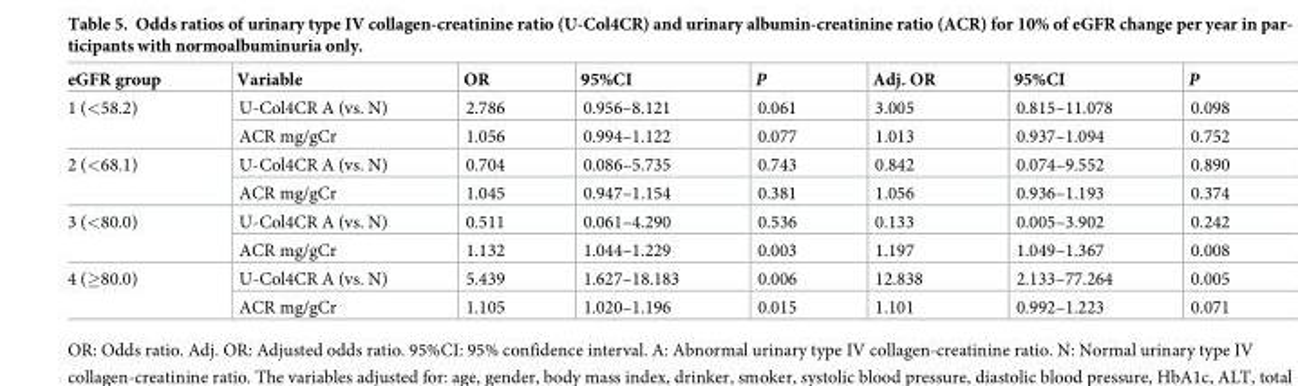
<table><thead><tr><td>eGFR group</td><td>Variable</td><td>OR</td><td>95%CI</td><td>P</td><td>Adj. OR</td><td>95%CI</td><td>P</td></tr></thead><tbody><tr><td rowspan="2">1 (&lt;58.2)</td><td>U-Col4CR A (vs. N)</td><td>2.786</td><td>0.956–8.121</td><td>0.061</td><td>3.005</td><td>0.815–11.078</td><td>0.098</td></tr><tr><td>ACR mg/gCr</td><td>1.056</td><td>0.994–1.122</td><td>0.077</td><td>1.013</td><td>0.937–1.094</td><td>0.752</td></tr><tr><td rowspan="2">2 (&lt;68.1)</td><td>U-Col4CR A (vs. N)</td><td>0.704</td><td>0.086–5.735</td><td>0.743</td><td>0.842</td><td>0.074–9.552</td><td>0.890</td></tr><tr><td>ACR mg/gCr</td><td>1.045</td><td>0.947–1.154</td><td>0.381</td><td>1.056</td><td>0.936–1.193</td><td>0.374</td></tr><tr><td rowspan="2">3 (&lt;80.0)</td><td>U-Col4CR A (vs. N)</td><td>0.511</td><td>0.061–4.290</td><td>0.536</td><td>0.133</td><td>0.005–3.902</td><td>0.242</td></tr><tr><td>ACR mg/gCr</td><td>1.132</td><td>1.044–1.229</td><td>0.003</td><td>1.197</td><td>1.049–1.367</td><td>0.008</td></tr><tr><td rowspan="2">4 (≥80.0)</td><td>U-Col4CR A (vs. N)</td><td>5.439</td><td>1.627–18.183</td><td>0.006</td><td>12.838</td><td>2.133–77.264</td><td>0.005</td></tr><tr><td>ACR mg/gCr</td><td>1.105</td><td>1.020–1.196</td><td>0.015</td><td>1.101</td><td>0.992–1.223</td><td>0.071</td></tr></tbody></table>